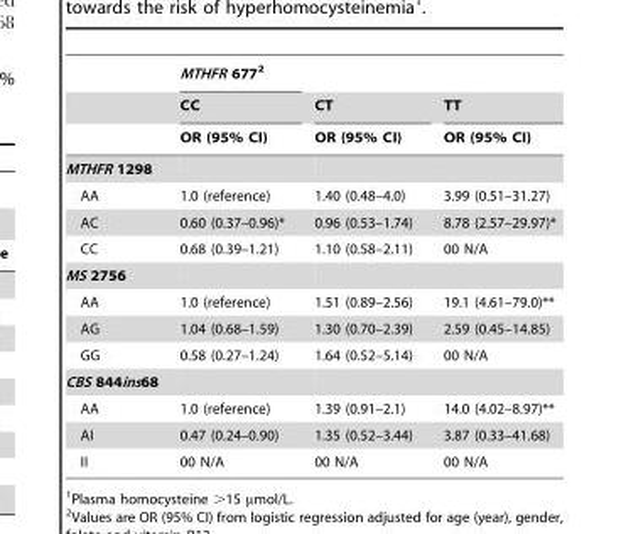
<table><thead><tr><td rowspan="3"></td><td rowspan="3">MTHFR 6772 CC OR (95% CI)</td><td rowspan="3">CT OR (95% CI)</td><td rowspan="3">TT OR (95% CI)</td></tr><tr></tr><tr></tr></thead><tbody><tr><td colspan="4">MTHFR 1298</td></tr><tr><td>AA</td><td>1.0 (reference)</td><td>1.40 (0.48–4.0)</td><td>3.99 (0.51–31.27)</td></tr><tr><td>AC</td><td>0.60 (0.37–0.96)*</td><td>0.96 (0.53–1.74)</td><td>8.78 (2.57–29.97)*</td></tr><tr><td>CC</td><td>0.68 (0.39–1.21)</td><td>1.10 (0.58–2.11)</td><td>00 N/A</td></tr><tr><td colspan="4">MS 2756</td></tr><tr><td>AA</td><td>1.0 (reference)</td><td>1.51 (0.89–2.56)</td><td>19.1 (4.61–79.0)**</td></tr><tr><td>AG</td><td>1.04 (0.68–1.59)</td><td>1.30 (0.70–2.39)</td><td>2.59 (0.45–14.85)</td></tr><tr><td>GG</td><td>0.58 (0.27–1.24)</td><td>1.64 (0.52–5.14)</td><td>00 N/A</td></tr><tr><td colspan="4">CBS 844ins68</td></tr><tr><td>AA</td><td>1.0 (reference)</td><td>1.39 (0.91–2.1)</td><td>14.0 (4.02–8.97)**</td></tr><tr><td>AI</td><td>0.47 (0.24–0.90)</td><td>1.35 (0.52–3.44)</td><td>3.87 (0.33–41.68)</td></tr><tr><td>II</td><td>00 N/A</td><td>00 N/A</td><td>00 N/A</td></tr></tbody></table>